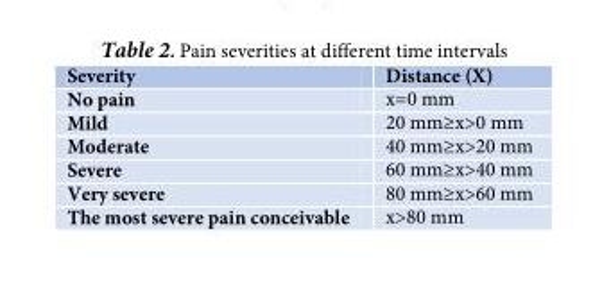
<table><thead><tr><td>Severity</td><td>Distance (X)</td></tr></thead><tbody><tr><td>No pain</td><td>x=0 mm</td></tr><tr><td>Mild</td><td>20 mm≥x&gt;0 mm</td></tr><tr><td>Moderate</td><td>40 mm≥x&gt;20 mm</td></tr><tr><td>Severe</td><td>60 mm≥x&gt;40 mm</td></tr><tr><td>Very severe</td><td>80 mm≥x&gt;60 mm</td></tr><tr><td>The most severe pain conceivable</td><td>x&gt;80 mm</td></tr></tbody></table>